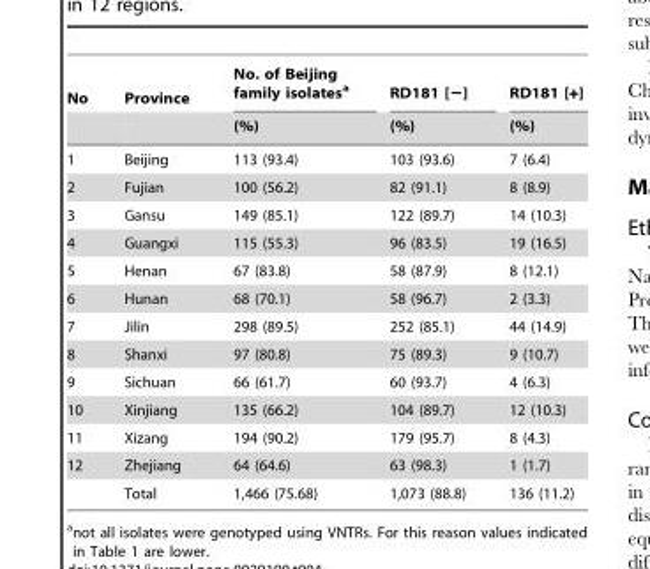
<table><thead><tr><td rowspan="2">No</td><td rowspan="2">Province</td><td rowspan="2">No. of Beijing family isolates<sup>a</sup> (%)</td><td rowspan="2">RD181 [−] (%)</td><td rowspan="2">RD181 [+] (%)</td></tr><tr></tr></thead><tbody><tr><td>1</td><td>Beijing</td><td>113 (93.4)</td><td>103 (93.6)</td><td>7 (6.4)</td></tr><tr><td>2</td><td>Fujian</td><td>100 (56.2)</td><td>82 (91.1)</td><td>8 (8.9)</td></tr><tr><td>3</td><td>Gansu</td><td>149 (85.1)</td><td>122 (89.7)</td><td>14 (10.3)</td></tr><tr><td>4</td><td>Guangxi</td><td>115 (55.3)</td><td>96 (83.5)</td><td>19 (16.5)</td></tr><tr><td>5</td><td>Henan</td><td>67 (83.8)</td><td>58 (87.9)</td><td>8 (12.1)</td></tr><tr><td>6</td><td>Hunan</td><td>68 (70.1)</td><td>58 (96.7)</td><td>2 (3.3)</td></tr><tr><td>7</td><td>Jilin</td><td>298 (89.5)</td><td>252 (85.1)</td><td>44 (14.9)</td></tr><tr><td>8</td><td>Shanxi</td><td>97 (80.8)</td><td>75 (89.3)</td><td>9 (10.7)</td></tr><tr><td>9</td><td>Sichuan</td><td>66 (61.7)</td><td>60 (93.7)</td><td>4 (6.3)</td></tr><tr><td>10</td><td>Xinjiang</td><td>135 (66.2)</td><td>104 (89.7)</td><td>12 (10.3)</td></tr><tr><td>11</td><td>Xizang</td><td>194 (90.2)</td><td>179 (95.7)</td><td>8 (4.3)</td></tr><tr><td rowspan="2">12</td><td>Zhejiang</td><td>64 (64.6)</td><td>63 (98.3)</td><td>1 (1.7)</td></tr><tr><td>Total</td><td>1,466 (75.68)</td><td>1,073 (88.8)</td><td>136 (11.2)</td></tr></tbody></table>